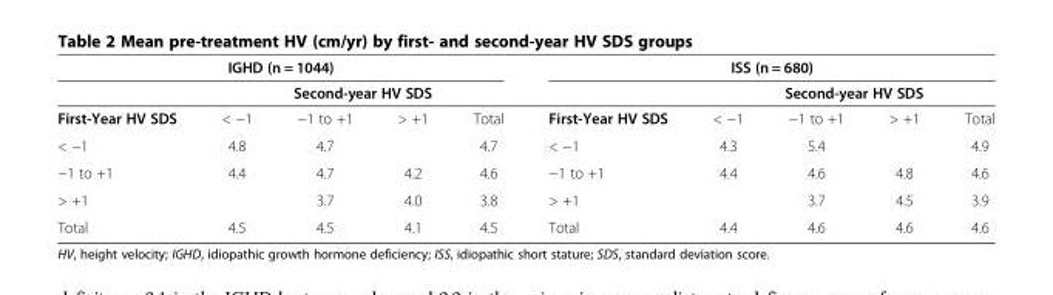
<table><thead><tr><td colspan="5">IGHD (n = 1044)</td><td colspan="5">ISS (n = 680)</td></tr><tr><td rowspan="2">First-Year HV SDS</td><td colspan="4">Second-year HV SDS</td><td rowspan="2">First-Year HV SDS</td><td colspan="4">Second-year HV SDS</td></tr><tr><td>&lt; −1</td><td>−1 to +1</td><td>&gt; +1</td><td>Total</td><td>&lt; −1</td><td>−1 to +1</td><td>&gt; +1</td><td>Total</td></tr></thead><tbody><tr><td>&lt; −1</td><td>4.8</td><td>4.7</td><td></td><td>4.7</td><td>&lt; −1</td><td>4.3</td><td>5.4</td><td></td><td>4.9</td></tr><tr><td>−1 to +1</td><td>4.4</td><td>4.7</td><td>4.2</td><td>4.6</td><td>−1 to +1</td><td>4.4</td><td>4.6</td><td>4.8</td><td>4.6</td></tr><tr><td>&gt; +1</td><td></td><td>3.7</td><td>4.0</td><td>3.8</td><td>&gt; +1</td><td></td><td>3.7</td><td>4.5</td><td>3.9</td></tr><tr><td>Total</td><td>4.5</td><td>4.5</td><td>4.1</td><td>4.5</td><td>Total</td><td>4.4</td><td>4.6</td><td>4.6</td><td>4.6</td></tr></tbody></table>